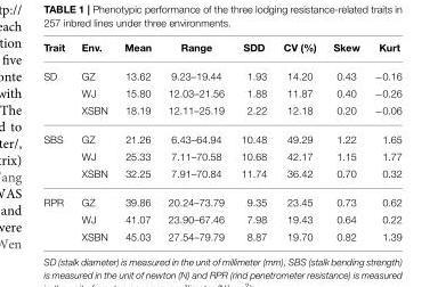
<table><thead><tr><td>Trait</td><td>Env.</td><td>Mean</td><td>Range</td><td>SDD</td><td>CV (%)</td><td>Skew</td><td>Kurt</td></tr></thead><tbody><tr><td rowspan="3">SD</td><td>GZ</td><td>13.62</td><td>9.23–19.44</td><td>1.93</td><td>14.20</td><td>0.43</td><td>−0.16</td></tr><tr><td>WJ</td><td>15.80</td><td>12.03–21.56</td><td>1.88</td><td>11.87</td><td>0.40</td><td>−0.26</td></tr><tr><td>XSBN</td><td>18.19</td><td>12.11–25.19</td><td>2.22</td><td>12.18</td><td>0.20</td><td>−0.06</td></tr><tr><td rowspan="3">SBS</td><td>GZ</td><td>21.26</td><td>6.43–64.94</td><td>10.48</td><td>49.29</td><td>1.22</td><td>1.65</td></tr><tr><td>WJ</td><td>25.33</td><td>7.11–70.58</td><td>10.68</td><td>42.17</td><td>1.15</td><td>1.77</td></tr><tr><td>XSBN</td><td>32.25</td><td>7.91–70.84</td><td>11.74</td><td>36.42</td><td>0.70</td><td>0.32</td></tr><tr><td rowspan="3">RPR</td><td>GZ</td><td>39.86</td><td>20.24–73.79</td><td>9.35</td><td>23.45</td><td>0.73</td><td>0.62</td></tr><tr><td>WJ</td><td>41.07</td><td>23.90–67.46</td><td>7.98</td><td>19.43</td><td>0.64</td><td>0.22</td></tr><tr><td>XSBN</td><td>45.03</td><td>27.54–79.79</td><td>8.87</td><td>19.70</td><td>0.82</td><td>1.39</td></tr></tbody></table>